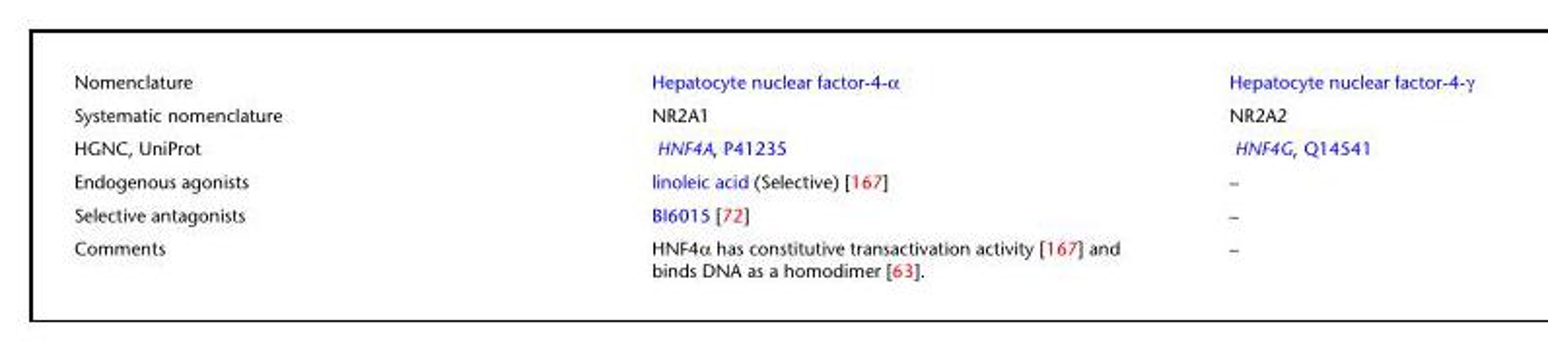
<table><tbody><tr><td>Nomenclature</td><td>Hepatocyte nuclear factor-4-α</td><td>Hepatocyte nuclear factor-4-γ</td></tr><tr><td>Systematic nomenclature</td><td>NR2A1</td><td>NR2A2</td></tr><tr><td>HGNC, UniProt</td><td>HNF4A, P41235</td><td>HNF4G, Q14541</td></tr><tr><td>Endogenous agonists</td><td>linoleic acid (Selective) [167]</td><td>–</td></tr><tr><td>Selective antagonists</td><td>BI6015 [72]</td><td>–</td></tr><tr><td>Comments</td><td>HNF4α has constitutive transactivation activity [167] and binds DNA as a homodimer [63].</td><td>–</td></tr></tbody></table>